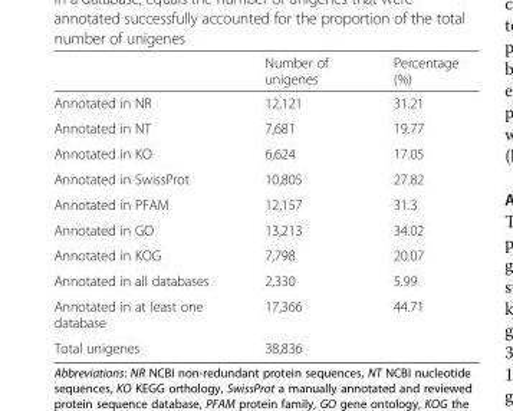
<table><thead><tr><td></td><td>Number of unigenes</td><td>Percentage (%)</td></tr></thead><tbody><tr><td>Annotated in NR</td><td>12,121</td><td>31.21</td></tr><tr><td>Annotated in NT</td><td>7,681</td><td>19.77</td></tr><tr><td>Annotated in KO</td><td>6,624</td><td>17.05</td></tr><tr><td>Annotated in SwissProt</td><td>10,805</td><td>27.82</td></tr><tr><td>Annotated in PFAM</td><td>12,157</td><td>31.3</td></tr><tr><td>Annotated in GO</td><td>13,213</td><td>34.02</td></tr><tr><td>Annotated in KOG</td><td>7,798</td><td>20.07</td></tr><tr><td>Annotated in all databases</td><td>2,330</td><td>5.99</td></tr><tr><td>Annotated in at least one database</td><td>17,366</td><td>44.71</td></tr><tr><td>Total unigenes</td><td>38,836</td><td></td></tr></tbody></table>